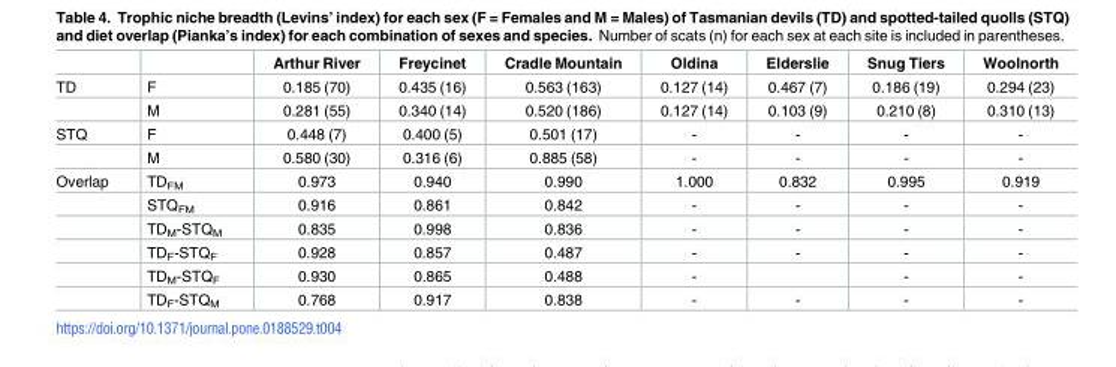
<table><thead><tr><td></td><td></td><td>Arthur River</td><td>Freycinet</td><td>Cradle Mountain</td><td>Oldina</td><td>Elderslie</td><td>Snug Tiers</td><td>Woolnorth</td></tr></thead><tbody><tr><td rowspan="2">TD</td><td>F</td><td>0.185 (70)</td><td>0.435 (16)</td><td>0.563 (163)</td><td>0.127 (14)</td><td>0.467 (7)</td><td>0.186 (19)</td><td>0.294 (23)</td></tr><tr><td>M</td><td>0.281 (55)</td><td>0.340 (14)</td><td>0.520 (186)</td><td>0.127 (14)</td><td>0.103 (9)</td><td>0.210 (8)</td><td>0.310 (13)</td></tr><tr><td rowspan="2">STQ</td><td>F</td><td>0.448 (7)</td><td>0.400 (5)</td><td>0.501 (17)</td><td>-</td><td>-</td><td>-</td><td>-</td></tr><tr><td>M</td><td>0.580 (30)</td><td>0.316 (6)</td><td>0.885 (58)</td><td>-</td><td>-</td><td>-</td><td>-</td></tr><tr><td rowspan="6">Overlap</td><td>TD<sub>FM</sub></td><td>0.973</td><td>0.940</td><td>0.990</td><td>1.000</td><td>0.832</td><td>0.995</td><td>0.919</td></tr><tr><td>STQ<sub>FM</sub></td><td>0.916</td><td>0.861</td><td>0.842</td><td>-</td><td>-</td><td>-</td><td>-</td></tr><tr><td>TD<sub>M</sub>-STQ<sub>M</sub></td><td>0.835</td><td>0.998</td><td>0.836</td><td>-</td><td>-</td><td>-</td><td>-</td></tr><tr><td>TD<sub>F</sub>-STQ<sub>F</sub></td><td>0.928</td><td>0.857</td><td>0.487</td><td>-</td><td>-</td><td>-</td><td>-</td></tr><tr><td>TD<sub>M</sub>-STQ<sub>F</sub></td><td>0.930</td><td>0.865</td><td>0.488</td><td>-</td><td></td><td>-</td><td>-</td></tr><tr><td>TD<sub>F</sub>-STQ<sub>M</sub></td><td>0.768</td><td>0.917</td><td>0.838</td><td>-</td><td>-</td><td>-</td><td>-</td></tr></tbody></table>